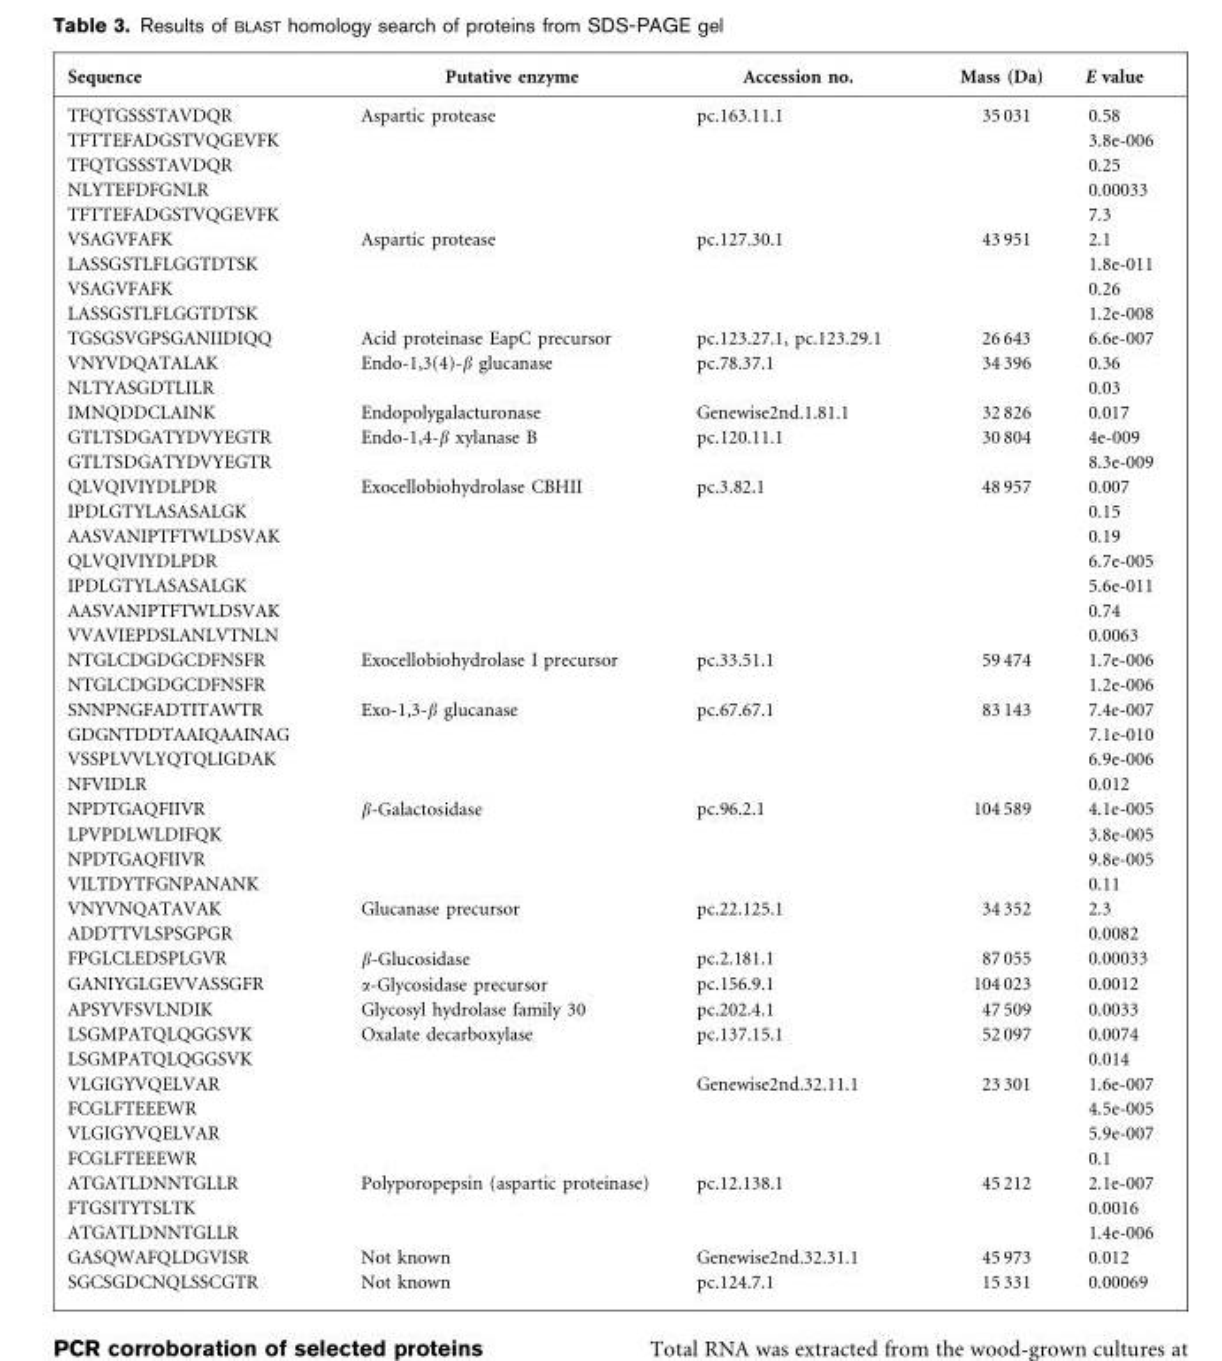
<table><thead><tr><td>Sequence</td><td>Putative enzyme</td><td>Accession no.</td><td>Mass (Da)</td><td>E value</td></tr></thead><tbody><tr><td>TFQTGSSSTAVDQR</td><td>Aspartic protease</td><td>pc.163.11.1</td><td>35 031</td><td>0.58</td></tr><tr><td>TFTTEFADGSTVQGEVFK</td><td></td><td></td><td></td><td>3.8e-006</td></tr><tr><td>TFQTGSSSTAVDQR</td><td></td><td></td><td></td><td>0.25</td></tr><tr><td>NLYTEFDFGNLR</td><td></td><td></td><td></td><td>0.00033</td></tr><tr><td>TFTTEFADGSTVQGEVFK</td><td></td><td></td><td></td><td>7.3</td></tr><tr><td>VSAGVFAFK</td><td>Aspartic protease</td><td>pc.127.30.1</td><td>43 951</td><td>2.1</td></tr><tr><td>LASSGSTLFLGGTDTSK</td><td></td><td></td><td></td><td>1.8e-011</td></tr><tr><td>VSAGVFAFK</td><td></td><td></td><td></td><td>0.26</td></tr><tr><td>LASSGSTLFLGGTDTSK</td><td></td><td></td><td></td><td>1.2e-008</td></tr><tr><td>TGSGSVGPSGANIIDIQQ</td><td>Acid proteinase EapC precursor</td><td>pc.123.27.1, pc.123.29.1</td><td>26 643</td><td>6.6e-007</td></tr><tr><td>VNYVDQATALAK</td><td>Endo-1,3(4)-β glucanase</td><td>pc.78.37.1</td><td>34 396</td><td>0.36</td></tr><tr><td>NLTYASGDTLILR</td><td></td><td></td><td></td><td>0.03</td></tr><tr><td>IMNQDDCLAINK</td><td>Endopolygalacturonase</td><td>Genewise2nd.1.81.1</td><td>32 826</td><td>0.017</td></tr><tr><td>GTLTSDGATYDVYEGTR</td><td>Endo-1,4-β xylanase B</td><td>pc.120.11.1</td><td>30 804</td><td>4e-009</td></tr><tr><td>GTLTSDGATYDVYEGTR</td><td></td><td></td><td></td><td>8.3e-009</td></tr><tr><td>QLVQIVIYDLPDR</td><td>Exocellobiohydrolase CBHII</td><td>pc.3.82.1</td><td>48 957</td><td>0.007</td></tr><tr><td>IPDLGTYLASASALGK</td><td></td><td></td><td></td><td>0.15</td></tr><tr><td>AASVANIPTFTWLDSVAK</td><td></td><td></td><td></td><td>0.19</td></tr><tr><td>QLVQIVIYDLPDR</td><td></td><td></td><td></td><td>6.7e-005</td></tr><tr><td>IPDLGTYLASASALGK</td><td></td><td></td><td></td><td>5.6e-011</td></tr><tr><td>AASVANIPTFTWLDSVAK</td><td></td><td></td><td></td><td>0.74</td></tr><tr><td>VVAVIEPDSLANLVTNLN</td><td></td><td></td><td></td><td>0.0063</td></tr><tr><td>NTGLCDGDGCDFNSFR</td><td>Exocellobiohydrolase I precursor</td><td>pc.33.51.1</td><td>59 474</td><td>1.7e-006</td></tr><tr><td>NTGLCDGDGCDFNSFR</td><td></td><td></td><td></td><td>1.2e-006</td></tr><tr><td>SNNPNGFADTITAWTR</td><td>Exo-1,3-β glucanase</td><td>pc.67.67.1</td><td>83 143</td><td>7.4e-007</td></tr><tr><td>GDGNTDDTAAIQAAINAG</td><td></td><td></td><td></td><td>7.1e-010</td></tr><tr><td>VSSPLVVLYQTQLIGDAK</td><td></td><td></td><td></td><td>6.9e-006</td></tr><tr><td>NFVIDLR</td><td></td><td></td><td></td><td>0.012</td></tr><tr><td>NPDTGAQFIIVR</td><td>β-Galactosidase</td><td>pc.96.2.1</td><td>104 589</td><td>4.1e-005</td></tr><tr><td>LPVPDLWLDIFQK</td><td></td><td></td><td></td><td>3.8e-005</td></tr><tr><td>NPDTGAQFIIVR</td><td></td><td></td><td></td><td>9.8e-005</td></tr><tr><td>VILTDYTFGNPANANK</td><td></td><td></td><td></td><td>0.11</td></tr><tr><td>VNYVNQATAVAK</td><td>Glucanase precursor</td><td>pc.22.125.1</td><td>34 352</td><td>2.3</td></tr><tr><td>ADDTTVLSPSGPGR</td><td></td><td></td><td></td><td>0.0082</td></tr><tr><td>FPGLCLEDSPLGVR</td><td>β-Glucosidase</td><td>pc.2.181.1</td><td>87 055</td><td>0.00033</td></tr><tr><td>GANIYGLGEVVASSGFR</td><td>α-Glycosidase precursor</td><td>pc.156.9.1</td><td>104 023</td><td>0.0012</td></tr><tr><td>APSYVFSVLNDIK</td><td>Glycosyl hydrolase family 30</td><td>pc.202.4.1</td><td>47 509</td><td>0.0033</td></tr><tr><td>LSGMPATQLQGGSVK</td><td>Oxalate decarboxylase</td><td>pc.137.15.1</td><td>52 097</td><td>0.0074</td></tr><tr><td>LSGMPATQLQGGSVK</td><td></td><td></td><td></td><td>0.014</td></tr><tr><td>VLGIGYVQELVAR</td><td></td><td>Genewise2nd.32.11.1</td><td>23 301</td><td>1.6e-007</td></tr><tr><td>FCGLFTEEEWR</td><td></td><td></td><td></td><td>4.5e-005</td></tr><tr><td>VLGIGYVQELVAR</td><td></td><td></td><td></td><td>5.9e-007</td></tr><tr><td>FCGLFTEEEWR</td><td></td><td></td><td></td><td>0.1</td></tr><tr><td>ATGATLDNNTGLLR</td><td>Polyporopepsin (aspartic proteinase)</td><td>pc.12.138.1</td><td>45 212</td><td>2.1e-007</td></tr><tr><td>FTGSITYTSLTK</td><td></td><td></td><td></td><td>0.0016</td></tr><tr><td>ATGATLDNNTGLLR</td><td></td><td></td><td></td><td>1.4e-006</td></tr><tr><td>GASQWAFQLDGVISR</td><td>Not known</td><td>Genewise2nd.32.31.1</td><td>45 973</td><td>0.012</td></tr><tr><td>SGCSGDCNQLSSCGTR</td><td>Not known</td><td>pc.124.7.1</td><td>15 331</td><td>0.00069</td></tr></tbody></table>